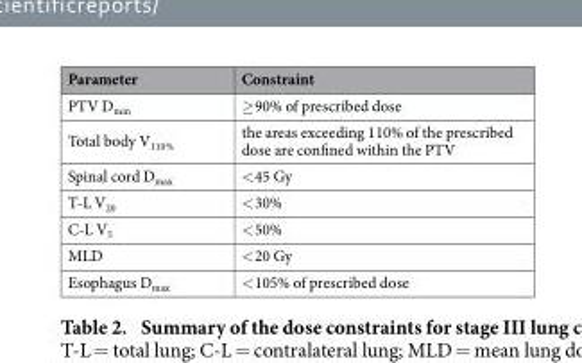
<table><thead><tr><td>Parameter</td><td>Constraint</td></tr></thead><tbody><tr><td>PTV D<sub>min</sub></td><td>≥ 90% of prescribed dose</td></tr><tr><td>Total body V<sub>110%</sub></td><td>the areas exceeding 110% of the prescribed dose are confined within the PTV</td></tr><tr><td>Spinal cord D<sub>max</sub></td><td>&lt; 45 Gy</td></tr><tr><td>T-L V<sub>20</sub></td><td>&lt; 30%</td></tr><tr><td>C-L V<sub>5</sub></td><td>&lt; 50%</td></tr><tr><td>MLD</td><td>&lt; 20 Gy</td></tr><tr><td>Esophagus D<sub>max</sub></td><td>&lt; 105% of prescribed dose</td></tr></tbody></table>